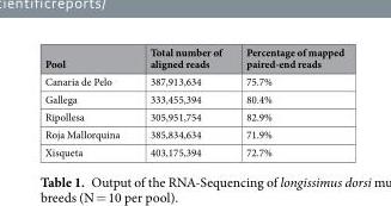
<table><thead><tr><td>Pool</td><td>Total number of aligned reads</td><td>Percentage of mapped paired-end reads</td></tr></thead><tbody><tr><td>Canaria de Pelo</td><td>387,913,634</td><td>75.7%</td></tr><tr><td>Gallega</td><td>333,455,394</td><td>80.4%</td></tr><tr><td>Ripollesa</td><td>305,951,754</td><td>82.9%</td></tr><tr><td>Roja Mallorquina</td><td>385,834,634</td><td>71.9%</td></tr><tr><td>Xisqueta</td><td>403,175,394</td><td>72.7%</td></tr></tbody></table>